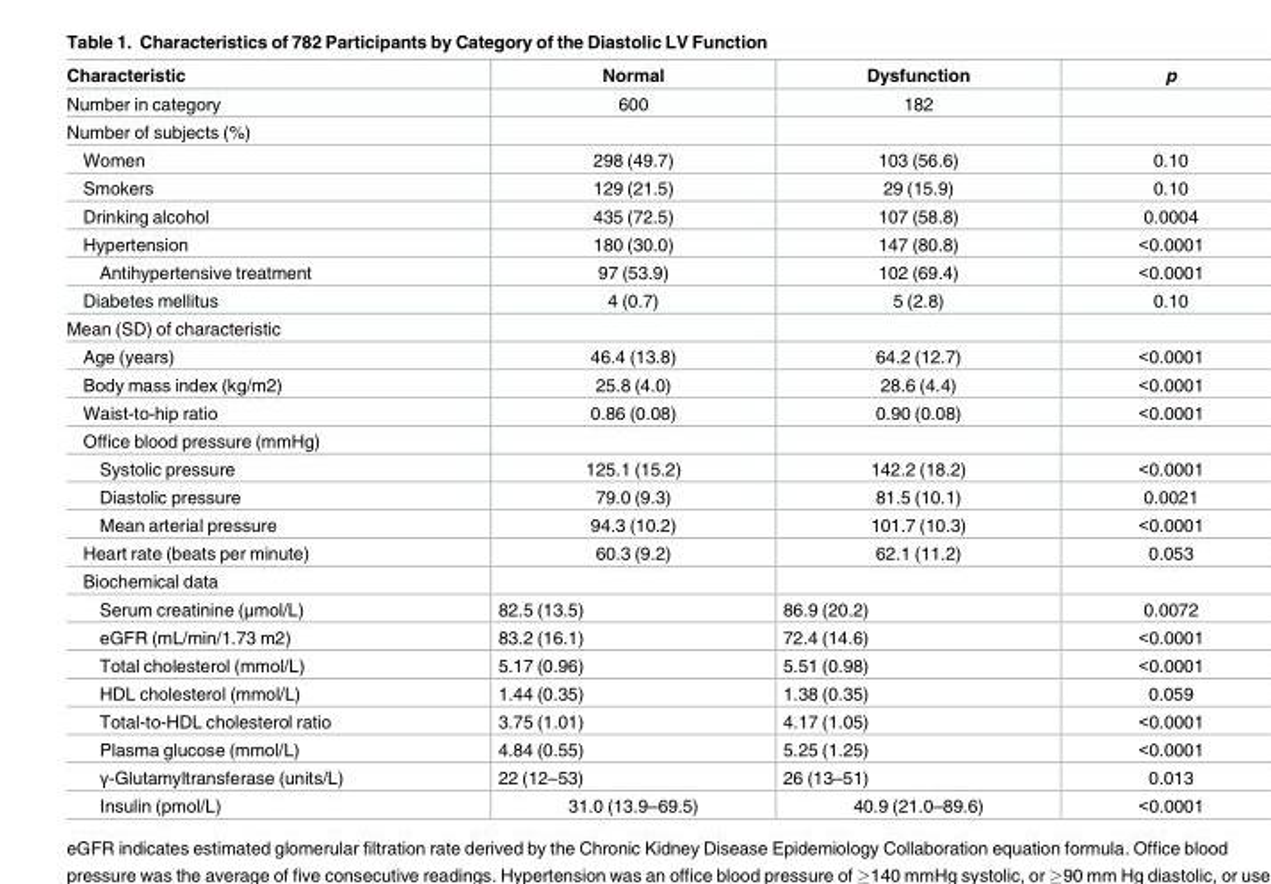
<table><thead><tr><td>Characteristic</td><td>Normal</td><td>Dysfunction</td><td>p</td></tr></thead><tbody><tr><td>Number in category</td><td>600</td><td>182</td><td></td></tr><tr><td colspan="4">Number of subjects (%)</td></tr><tr><td>Women</td><td>298 (49.7)</td><td>103 (56.6)</td><td>0.10</td></tr><tr><td>Smokers</td><td>129 (21.5)</td><td>29 (15.9)</td><td>0.10</td></tr><tr><td>Drinking alcohol</td><td>435 (72.5)</td><td>107 (58.8)</td><td>0.0004</td></tr><tr><td>Hypertension</td><td>180 (30.0)</td><td>147 (80.8)</td><td>&lt;0.0001</td></tr><tr><td>Antihypertensive treatment</td><td>97 (53.9)</td><td>102 (69.4)</td><td>&lt;0.0001</td></tr><tr><td>Diabetes mellitus</td><td>4 (0.7)</td><td>5 (2.8)</td><td>0.10</td></tr><tr><td colspan="4">Mean (SD) of characteristic</td></tr><tr><td>Age (years)</td><td>46.4 (13.8)</td><td>64.2 (12.7)</td><td>&lt;0.0001</td></tr><tr><td>Body mass index (kg/m2)</td><td>25.8 (4.0)</td><td>28.6 (4.4)</td><td>&lt;0.0001</td></tr><tr><td>Waist-to-hip ratio</td><td>0.86 (0.08)</td><td>0.90 (0.08)</td><td>&lt;0.0001</td></tr><tr><td colspan="4">Office blood pressure (mmHg)</td></tr><tr><td>Systolic pressure</td><td>125.1 (15.2)</td><td>142.2 (18.2)</td><td>&lt;0.0001</td></tr><tr><td>Diastolic pressure</td><td>79.0 (9.3)</td><td>81.5 (10.1)</td><td>0.0021</td></tr><tr><td>Mean arterial pressure</td><td>94.3 (10.2)</td><td>101.7 (10.3)</td><td>&lt;0.0001</td></tr><tr><td>Heart rate (beats per minute)</td><td>60.3 (9.2)</td><td>62.1 (11.2)</td><td>0.053</td></tr><tr><td colspan="4">Biochemical data</td></tr><tr><td>Serum creatinine (μmol/L)</td><td>82.5 (13.5)</td><td>86.9 (20.2)</td><td>0.0072</td></tr><tr><td>eGFR (mL/min/1.73 m2)</td><td>83.2 (16.1)</td><td>72.4 (14.6)</td><td>&lt;0.0001</td></tr><tr><td>Total cholesterol (mmol/L)</td><td>5.17 (0.96)</td><td>5.51 (0.98)</td><td>&lt;0.0001</td></tr><tr><td>HDL cholesterol (mmol/L)</td><td>1.44 (0.35)</td><td>1.38 (0.35)</td><td>0.059</td></tr><tr><td>Total-to-HDL cholesterol ratio</td><td>3.75 (1.01)</td><td>4.17 (1.05)</td><td>&lt;0.0001</td></tr><tr><td>Plasma glucose (mmol/L)</td><td>4.84 (0.55)</td><td>5.25 (1.25)</td><td>&lt;0.0001</td></tr><tr><td>γ-Glutamyltransferase (units/L)</td><td>22 (12–53)</td><td>26 (13–51)</td><td>0.013</td></tr><tr><td>Insulin (pmol/L)</td><td>31.0 (13.9–69.5)</td><td>40.9 (21.0–89.6)</td><td>&lt;0.0001</td></tr></tbody></table>